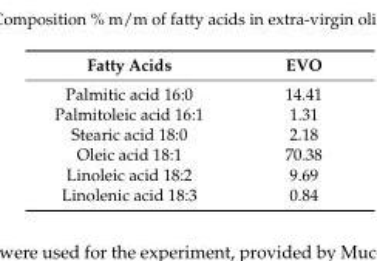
<table><thead><tr><td>Fatty Acids</td><td>EVO</td></tr></thead><tbody><tr><td>Palmitic acid 16:0</td><td>14.41</td></tr><tr><td>Palmitoleic acid 16:1</td><td>1.31</td></tr><tr><td>Stearic acid 18:0</td><td>2.18</td></tr><tr><td>Oleic acid 18:1</td><td>70.38</td></tr><tr><td>Linoleic acid 18:2</td><td>9.69</td></tr><tr><td>Linolenic acid 18:3</td><td>0.84</td></tr></tbody></table>